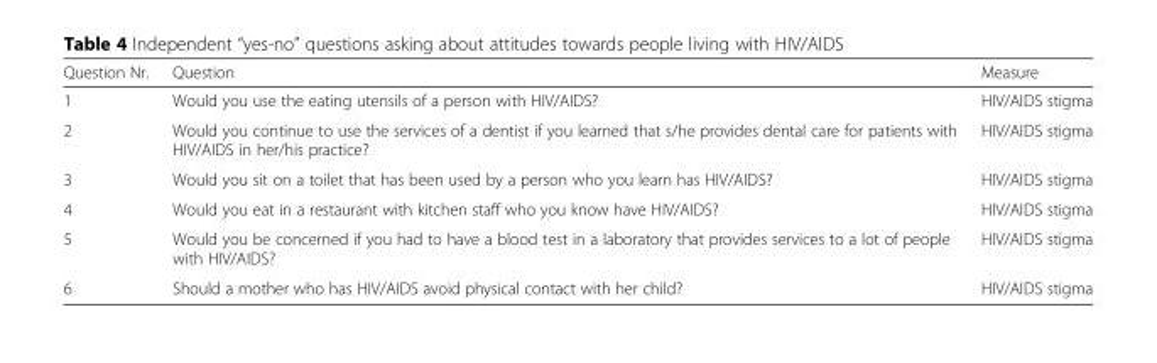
<table><thead><tr><td>Question Nr.</td><td>Question</td><td>Measure</td></tr></thead><tbody><tr><td>1</td><td>Would you use the eating utensils of a person with HIV/AIDS?</td><td>HIV/AIDS stigma</td></tr><tr><td>2</td><td>Would you continue to use the services of a dentist if you learned that s/he provides dental care for patients with HIV/AIDS in her/his practice?</td><td>HIV/AIDS stigma</td></tr><tr><td>3</td><td>Would you sit on a toilet that has been used by a person who you learn has HIV/AIDS?</td><td>HIV/AIDS stigma</td></tr><tr><td>4</td><td>Would you eat in a restaurant with kitchen staff who you know have HIV/AIDS?</td><td>HIV/AIDS stigma</td></tr><tr><td>5</td><td>Would you be concerned if you had to have a blood test in a laboratory that provides services to a lot of people with HIV/AIDS?</td><td>HIV/AIDS stigma</td></tr><tr><td>6</td><td>Should a mother who has HIV/AIDS avoid physical contact with her child?</td><td>HIV/AIDS stigma</td></tr></tbody></table>